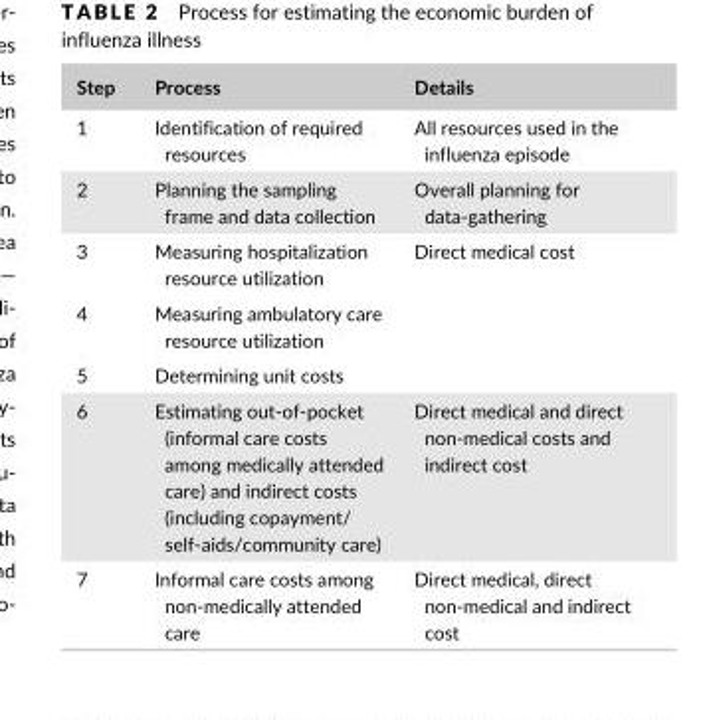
<table><thead><tr><td>Step</td><td>Process</td><td>Details</td></tr></thead><tbody><tr><td>1</td><td>Identification of required resources</td><td>All resources used in the influenza episode</td></tr><tr><td>2</td><td>Planning the sampling frame and data collection</td><td>Overall planning for data- gathering</td></tr><tr><td>3</td><td>Measuring hospitalization resource utilization</td><td rowspan="3">Direct medical cost</td></tr><tr><td>4</td><td>Measuring ambulatory care resource utilization</td></tr><tr><td>5</td><td>Determining unit costs</td></tr><tr><td>6</td><td>Estimating out- of- pocket (informal care costs among medically attended care) and indirect costs (including copayment/ self- aids/community care)</td><td>Direct medical and direct non- medical costs and indirect cost</td></tr><tr><td>7</td><td>Informal care costs among non- medically attended care</td><td>Direct medical, direct non- medical and indirect cost</td></tr></tbody></table>